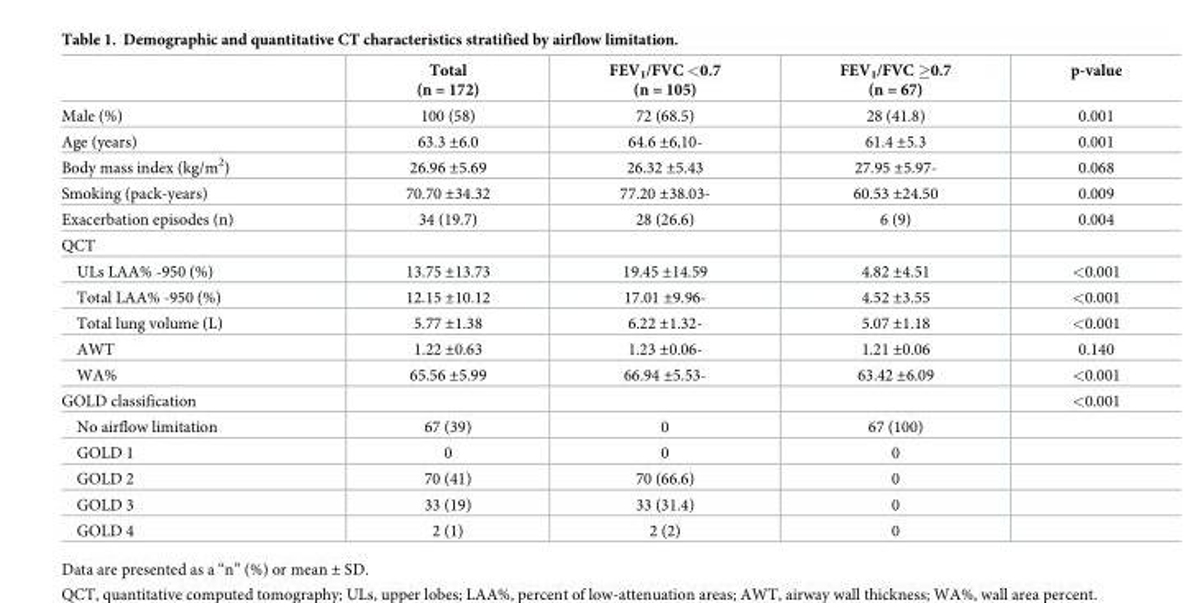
<table><thead><tr><td></td><td>Total (n = 172)</td><td>FEV<sub>1</sub>/FVC &lt;0.7 (n = 105)</td><td>FEV<sub>1</sub>/FVC ≥0.7 (n = 67)</td><td>p-value</td></tr></thead><tbody><tr><td>Male (%)</td><td>100 (58)</td><td>72 (68.5)</td><td>28 (41.8)</td><td>0.001</td></tr><tr><td>Age (years)</td><td>63.3 ±6.0</td><td>64.6 ±6,10-</td><td>61.4 ±5.3</td><td>0.001</td></tr><tr><td>Body mass index (kg/m<sup>2</sup>)</td><td>26.96 ±5.69</td><td>26.32 ±5.43</td><td>27.95 ±5.97-</td><td>0.068</td></tr><tr><td>Smoking (pack-years)</td><td>70.70 ±34.32</td><td>77.20 ±38.03-</td><td>60.53 ±24.50</td><td>0.009</td></tr><tr><td>Exacerbation episodes (n)</td><td>34 (19.7)</td><td>28 (26.6)</td><td>6 (9)</td><td>0.004</td></tr><tr><td colspan="5">QCT</td></tr><tr><td>ULs LAA% -950 (%)</td><td>13.75 ±13.73</td><td>19.45 ±14.59</td><td>4.82 ±4.51</td><td>&lt;0.001</td></tr><tr><td>Total LAA% -950 (%)</td><td>12.15 ±10.12</td><td>17.01 ±9.96-</td><td>4.52 ±3.55</td><td>&lt;0.001</td></tr><tr><td>Total lung volume (L)</td><td>5.77 ±1.38</td><td>6.22 ±1.32-</td><td>5.07 ±1.18</td><td>&lt;0.001</td></tr><tr><td>AWT</td><td>1.22 ±0.63</td><td>1.23 ±0.06-</td><td>1.21 ±0.06</td><td>0.140</td></tr><tr><td>WA%</td><td>65.56 ±5.99</td><td>66.94 ±5.53-</td><td>63.42 ±6.09</td><td>&lt;0.001</td></tr><tr><td>GOLD classification</td><td></td><td></td><td></td><td>&lt;0.001</td></tr><tr><td>No airflow limitation</td><td>67 (39)</td><td>0</td><td>67 (100)</td><td></td></tr><tr><td>GOLD 1</td><td>0</td><td>0</td><td>0</td><td></td></tr><tr><td>GOLD 2</td><td>70 (41)</td><td>70 (66.6)</td><td>0</td><td></td></tr><tr><td>GOLD 3</td><td>33 (19)</td><td>33 (31.4)</td><td>0</td><td></td></tr><tr><td>GOLD 4</td><td>2 (1)</td><td>2 (2)</td><td>0</td><td></td></tr></tbody></table>